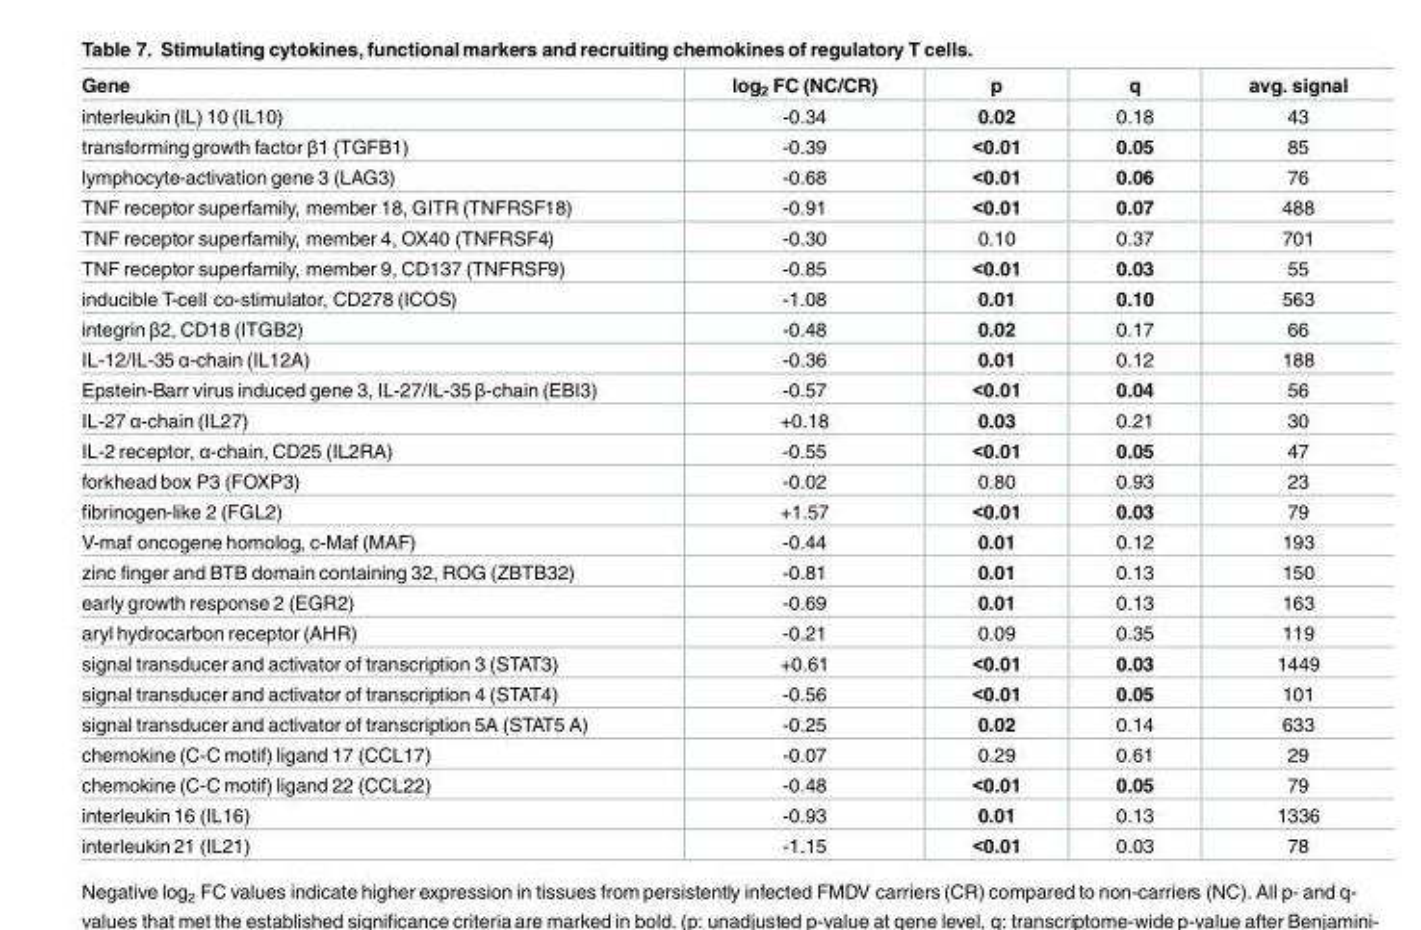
<table><thead><tr><td>Gene</td><td>log<sub>2</sub> FC (NC/CR)</td><td>p</td><td>q</td><td>avg. signal</td></tr></thead><tbody><tr><td>interleukin (IL) 10 (IL10)</td><td>-0.34</td><td>0.02</td><td>0.18</td><td>43</td></tr><tr><td>transforming growth factor β1 (TGFB1)</td><td>-0.39</td><td>&lt;0.01</td><td>0.05</td><td>85</td></tr><tr><td>lymphocyte-activation gene 3 (LAG3)</td><td>-0.68</td><td>&lt;0.01</td><td>0.06</td><td>76</td></tr><tr><td>TNF receptor superfamily, member 18, GITR (TNFRSF18)</td><td>-0.91</td><td>&lt;0.01</td><td>0.07</td><td>488</td></tr><tr><td>TNF receptor superfamily, member 4, OX40 (TNFRSF4)</td><td>-0.30</td><td>0.10</td><td>0.37</td><td>701</td></tr><tr><td>TNF receptor superfamily, member 9, CD137 (TNFRSF9)</td><td>-0.85</td><td>&lt;0.01</td><td>0.03</td><td>55</td></tr><tr><td>inducible T-cell co-stimulator, CD278 (ICOS)</td><td>-1.08</td><td>0.01</td><td>0.10</td><td>563</td></tr><tr><td>integrin β2, CD18 (ITGB2)</td><td>-0.48</td><td>0.02</td><td>0.17</td><td>66</td></tr><tr><td>IL-12/IL-35 α-chain (IL12A)</td><td>-0.36</td><td>0.01</td><td>0.12</td><td>188</td></tr><tr><td>Epstein-Barr virus induced gene 3, IL-27/IL-35 β-chain (EBI3)</td><td>-0.57</td><td>&lt;0.01</td><td>0.04</td><td>56</td></tr><tr><td>IL-27 α-chain (IL27)</td><td>+0.18</td><td>0.03</td><td>0.21</td><td>30</td></tr><tr><td>IL-2 receptor, α-chain, CD25 (IL2RA)</td><td>-0.55</td><td>&lt;0.01</td><td>0.05</td><td>47</td></tr><tr><td>forkhead box P3 (FOXP3)</td><td>-0.02</td><td>0.80</td><td>0.93</td><td>23</td></tr><tr><td>fibrinogen-like 2 (FGL2)</td><td>+1.57</td><td>&lt;0.01</td><td>0.03</td><td>79</td></tr><tr><td>V-maf oncogene homolog, c-Maf (MAF)</td><td>-0.44</td><td>0.01</td><td>0.12</td><td>193</td></tr><tr><td>zinc finger and BTB domain containing 32, ROG (ZBTB32)</td><td>-0.81</td><td>0.01</td><td>0.13</td><td>150</td></tr><tr><td>early growth response 2 (EGR2)</td><td>-0.69</td><td>0.01</td><td>0.13</td><td>163</td></tr><tr><td>aryl hydrocarbon receptor (AHR)</td><td>-0.21</td><td>0.09</td><td>0.35</td><td>119</td></tr><tr><td>signal transducer and activator of transcription 3 (STAT3)</td><td>+0.61</td><td>&lt;0.01</td><td>0.03</td><td>1449</td></tr><tr><td>signal transducer and activator of transcription 4 (STAT4)</td><td>-0.56</td><td>&lt;0.01</td><td>0.05</td><td>101</td></tr><tr><td>signal transducer and activator of transcription 5A (STAT5 A)</td><td>-0.25</td><td>0.02</td><td>0.14</td><td>633</td></tr><tr><td>chemokine (C-C motif) ligand 17 (CCL17)</td><td>-0.07</td><td>0.29</td><td>0.61</td><td>29</td></tr><tr><td>chemokine (C-C motif) ligand 22 (CCL22)</td><td>-0.48</td><td>&lt;0.01</td><td>0.05</td><td>79</td></tr><tr><td>interleukin 16 (IL16)</td><td>-0.93</td><td>0.01</td><td>0.13</td><td>1336</td></tr><tr><td>interleukin 21 (IL21)</td><td>-1.15</td><td>&lt;0.01</td><td>0.03</td><td>78</td></tr></tbody></table>